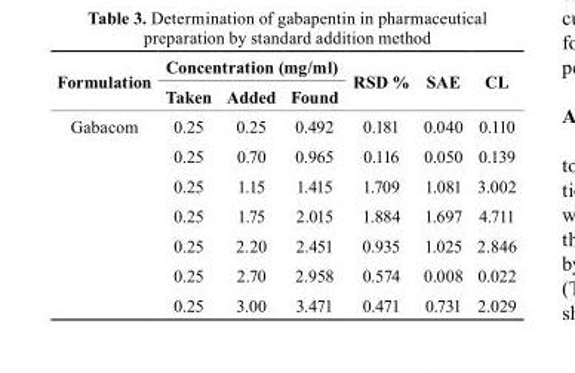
<table><thead><tr><td rowspan="2">Formulation</td><td colspan="3">Concentration (mg/ml)</td><td rowspan="2">rsD %</td><td rowspan="2">sAE</td><td rowspan="2">cL</td></tr><tr><td>Taken</td><td>Added</td><td>Found</td></tr></thead><tbody><tr><td rowspan="7">Gabacom</td><td>0.25</td><td>0.25</td><td>0.492</td><td>0.181</td><td>0.040</td><td>0.110</td></tr><tr><td>0.25</td><td>0.70</td><td>0.965</td><td>0.116</td><td>0.050</td><td>0.139</td></tr><tr><td>0.25</td><td>1.15</td><td>1.415</td><td>1.709</td><td>1.081</td><td>3.002</td></tr><tr><td>0.25</td><td>1.75</td><td>2.015</td><td>1.884</td><td>1.697</td><td>4.711</td></tr><tr><td>0.25</td><td>2.20</td><td>2.451</td><td>0.935</td><td>1.025</td><td>2.846</td></tr><tr><td>0.25</td><td>2.70</td><td>2.958</td><td>0.574</td><td>0.008</td><td>0.022</td></tr><tr><td>0.25</td><td>3.00</td><td>3.471</td><td>0.471</td><td>0.731</td><td>2.029</td></tr></tbody></table>